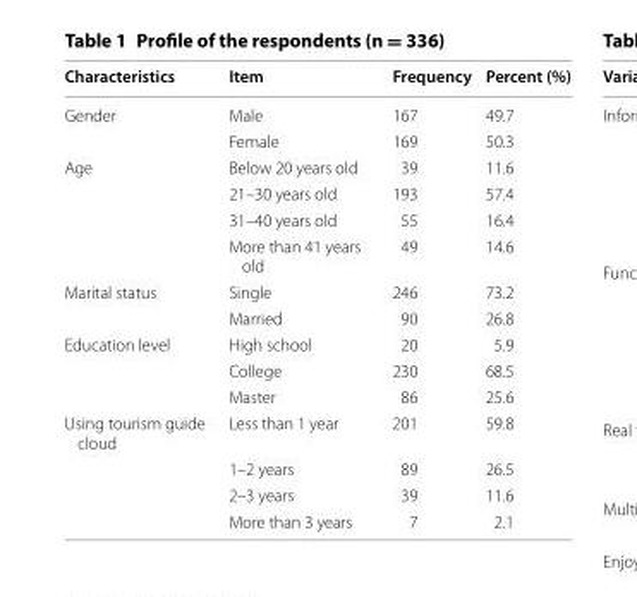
<table><thead><tr><td>Characteristics</td><td>Item</td><td>Frequency</td><td>Percent (%)</td></tr></thead><tbody><tr><td rowspan="2">Gender</td><td>Male</td><td>167</td><td>49.7</td></tr><tr><td>Female</td><td>169</td><td>50.3</td></tr><tr><td rowspan="4">Age</td><td>Below 20 years old</td><td>39</td><td>11.6</td></tr><tr><td>21–30 years old</td><td>193</td><td>57.4</td></tr><tr><td>31–40 years old</td><td>55</td><td>16.4</td></tr><tr><td>More than 41 years old</td><td>49</td><td>14.6</td></tr><tr><td rowspan="2">Marital status</td><td>Single</td><td>246</td><td>73.2</td></tr><tr><td>Married</td><td>90</td><td>26.8</td></tr><tr><td rowspan="3">Education level</td><td>High school</td><td>20</td><td>5.9</td></tr><tr><td>College</td><td>230</td><td>68.5</td></tr><tr><td>Master</td><td>86</td><td>25.6</td></tr><tr><td rowspan="4">Using tourism guide cloud</td><td>Less than 1 year</td><td>201</td><td>59.8</td></tr><tr><td>1–2 years</td><td>89</td><td>26.5</td></tr><tr><td>2–3 years</td><td>39</td><td>11.6</td></tr><tr><td>More than 3 years</td><td>7</td><td>2.1</td></tr></tbody></table>